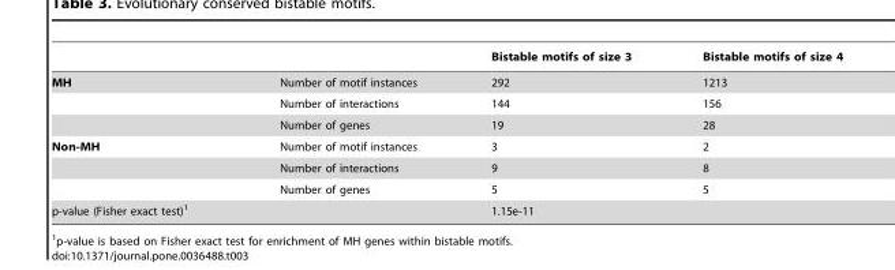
<table><thead><tr><td></td><td></td><td>Bistable motifs of size 3</td><td>Bistable motifs of size 4</td></tr></thead><tbody><tr><td rowspan="3">MH</td><td>Number of motif instances</td><td>292</td><td>1213</td></tr><tr><td>Number of interactions</td><td>144</td><td>156</td></tr><tr><td>Number of genes</td><td>19</td><td>28</td></tr><tr><td rowspan="3">Non-MH</td><td>Number of motif instances</td><td>3</td><td>2</td></tr><tr><td>Number of interactions</td><td>9</td><td>8</td></tr><tr><td>Number of genes</td><td>5</td><td>5</td></tr><tr><td colspan="2">p-value (Fisher exact test)<sup>1</sup></td><td colspan="2">1.15e-11</td></tr></tbody></table>